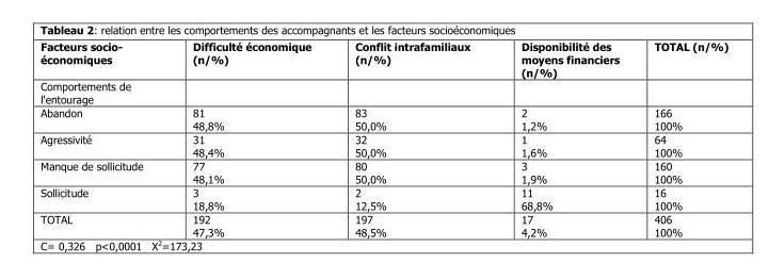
<table><thead><tr><td>Facteurs socio- économiques</td><td>Difficulté économique (n/%)</td><td>Conflit intrafamiliaux (n/%)</td><td>Disponibilité des moyens financiers (n/%)</td><td>TOTAL (n/%)</td></tr></thead><tbody><tr><td colspan="5">Comportements de l&#x27;entourage</td></tr><tr><td>Abandon</td><td>81 48,8%</td><td>83 50,0%</td><td>2 1,2%</td><td>166 100%</td></tr><tr><td>Agressivité</td><td>31 48,4%</td><td>32 50,0%</td><td>1 1,6%</td><td>64 100%</td></tr><tr><td>Manque de sollicitude</td><td>77 48,1%</td><td>80 50,0%</td><td>3 1,9%</td><td>160 100%</td></tr><tr><td>Sollicitude</td><td>3 18,8%</td><td>2 12,5%</td><td>11 68,8%</td><td>16 100%</td></tr><tr><td>TOTAL</td><td>192 47,3%</td><td>197 48,5%</td><td>17 4,2%</td><td>406 100%</td></tr></tbody></table>